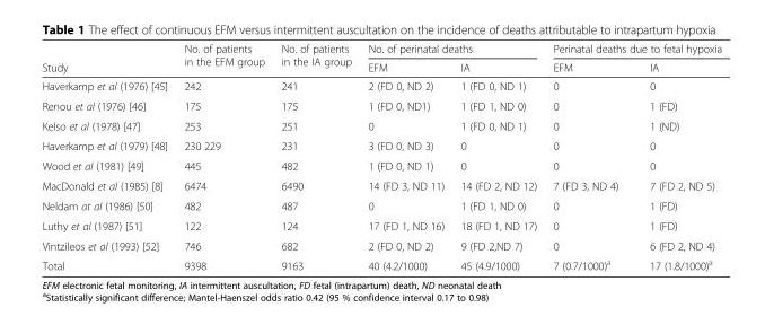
<table><thead><tr><td rowspan="2">Study</td><td rowspan="2">No. of patients in the EFM group</td><td rowspan="2">No. of patients in the IA group</td><td colspan="2">No. of perinatal deaths</td><td colspan="2">Perinatal deaths due to fetal hypoxia</td></tr><tr><td>EFM</td><td>IA</td><td>EFM</td><td>IA</td></tr></thead><tbody><tr><td>Haverkamp et al (1976) [45]</td><td>242</td><td>241</td><td>2 (FD 0, ND 2)</td><td>1 (FD 0, ND 1)</td><td>0</td><td>0</td></tr><tr><td>Renou et al (1976) [46]</td><td>175</td><td>175</td><td>1 (FD 0, ND1)</td><td>1 (FD 1, ND 0)</td><td>0</td><td>1 (FD)</td></tr><tr><td>Kelso et al (1978) [47]</td><td>253</td><td>251</td><td>0</td><td>1 (FD 0, ND 1)</td><td>0</td><td>1 (ND)</td></tr><tr><td>Haverkamp et al (1979) [48]</td><td>230 229</td><td>231</td><td>3 (FD 0, ND 3)</td><td>0</td><td>0</td><td>0</td></tr><tr><td>Wood et al (1981) [49]</td><td>445</td><td>482</td><td>1 (FD 0, ND 1)</td><td>0</td><td>0</td><td>0</td></tr><tr><td>MacDonald et al (1985) [8]</td><td>6474</td><td>6490</td><td>14 (FD 3, ND 11)</td><td>14 (FD 2, ND 12)</td><td>7 (FD 3, ND 4)</td><td>7 (FD 2, ND 5)</td></tr><tr><td>Neldam at al (1986) [50]</td><td>482</td><td>487</td><td>0</td><td>1 (FD 1, ND 0)</td><td>0</td><td>1 (FD)</td></tr><tr><td>Luthy et al (1987) [51]</td><td>122</td><td>124</td><td>17 (FD 1, ND 16)</td><td>18 (FD 1, ND 17)</td><td>0</td><td>1 (FD)</td></tr><tr><td>Vintzileos et al (1993) [52]</td><td>746</td><td>682</td><td>2 (FD 0, ND 2)</td><td>9 (FD 2,ND 7)</td><td>0</td><td>6 (FD 2, ND 4)</td></tr><tr><td>Total</td><td>9398</td><td>9163</td><td>40 (4.2/1000)</td><td>45 (4.9/1000)</td><td>7 (0.7/1000)<sup>a</sup></td><td>17 (1.8/1000)<sup>a</sup></td></tr></tbody></table>